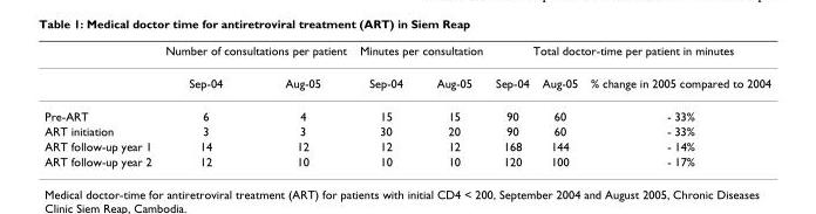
<table><thead><tr><td rowspan="2"></td><td colspan="2">Number of consultations per patient</td><td colspan="2">Minutes per consultation</td><td colspan="3">Total doctor-time per patient in minutes</td></tr><tr><td>Sep-04</td><td>Aug-05</td><td>Sep-04</td><td>Aug-05</td><td>Sep-04</td><td>Aug-05</td><td>% change in 2005 compared to 2004</td></tr></thead><tbody><tr><td>Pre-ART</td><td>6</td><td>4</td><td>15</td><td>15</td><td>90</td><td>60</td><td>- 33%</td></tr><tr><td>ART initiation</td><td>3</td><td>3</td><td>30</td><td>20</td><td>90</td><td>60</td><td>- 33%</td></tr><tr><td>ART follow-up year 1</td><td>14</td><td>12</td><td>12</td><td>12</td><td>168</td><td>144</td><td>- 14%</td></tr><tr><td>ART follow-up year 2</td><td>12</td><td>10</td><td>10</td><td>10</td><td>120</td><td>100</td><td>- 17%</td></tr></tbody></table>